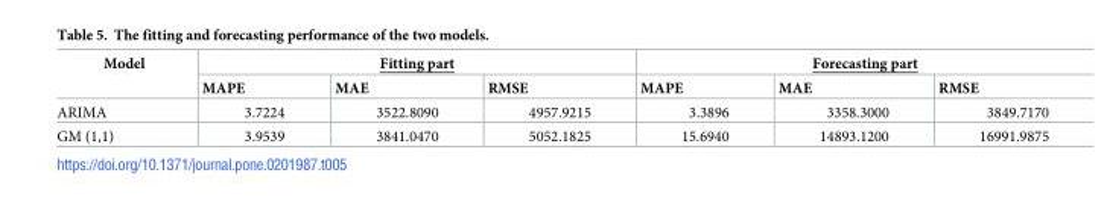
<table><thead><tr><td rowspan="2">Model</td><td colspan="3">Fitting part</td><td colspan="3">Forecasting part</td></tr><tr><td>MAPE</td><td>MAE</td><td>RMSE</td><td>MAPE</td><td>MAE</td><td>RMSE</td></tr></thead><tbody><tr><td>ARIMA</td><td>3.7224</td><td>3522.8090</td><td>4957.9215</td><td>3.3896</td><td>3358.3000</td><td>3849.7170</td></tr><tr><td>GM (1,1)</td><td>3.9539</td><td>3841.0470</td><td>5052.1825</td><td>15.6940</td><td>14893.1200</td><td>16991.9875</td></tr></tbody></table>